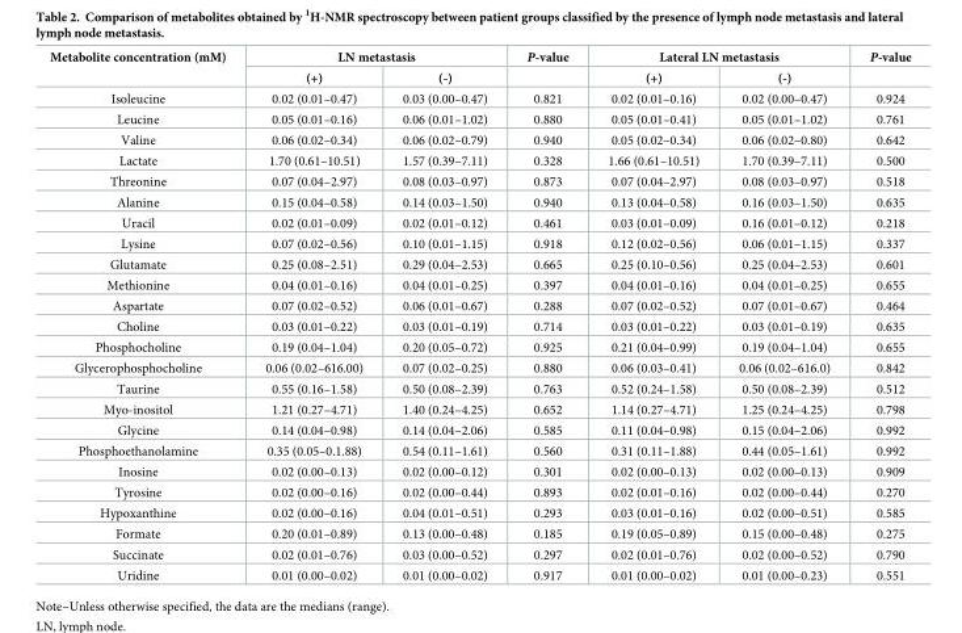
<table><thead><tr><td rowspan="2">Metabolite concentration (mM)</td><td colspan="2">LN metastasis</td><td rowspan="2">P-value</td><td colspan="2">Lateral LN metastasis</td><td rowspan="2">P-value</td></tr><tr><td>(+)</td><td>(-)</td><td>(+)</td><td>(-)</td></tr></thead><tbody><tr><td>Isoleucine</td><td>0.02 (0.01–0.47)</td><td>0.03 (0.00–0.47)</td><td>0.821</td><td>0.02 (0.01–0.16)</td><td>0.02 (0.00–0.47)</td><td>0.924</td></tr><tr><td>Leucine</td><td>0.05 (0.01–0.16)</td><td>0.06 (0.01–1.02)</td><td>0.880</td><td>0.05 (0.01–0.41)</td><td>0.05 (0.01–1.02)</td><td>0.761</td></tr><tr><td>Valine</td><td>0.06 (0.02–0.34)</td><td>0.06 (0.02–0.79)</td><td>0.940</td><td>0.05 (0.02–0.34)</td><td>0.06 (0.02–0.80)</td><td>0.642</td></tr><tr><td>Lactate</td><td>1.70 (0.61–10.51)</td><td>1.57 (0.39–7.11)</td><td>0.328</td><td>1.66 (0.61–10.51)</td><td>1.70 (0.39–7.11)</td><td>0.500</td></tr><tr><td>Threonine</td><td>0.07 (0.04–2.97)</td><td>0.08 (0.03–0.97)</td><td>0.873</td><td>0.07 (0.04–2.97)</td><td>0.08 (0.03–0.97)</td><td>0.518</td></tr><tr><td>Alanine</td><td>0.15 (0.04–0.58)</td><td>0.14 (0.03–1.50)</td><td>0.940</td><td>0.13 (0.04–0.58)</td><td>0.16 (0.03–1.50)</td><td>0.635</td></tr><tr><td>Uracil</td><td>0.02 (0.01–0.09)</td><td>0.02 (0.01–0.12)</td><td>0.461</td><td>0.03 (0.01–0.09)</td><td>0.16 (0.01–0.12)</td><td>0.218</td></tr><tr><td>Lysine</td><td>0.07 (0.02–0.56)</td><td>0.10 (0.01–1.15)</td><td>0.918</td><td>0.12 (0.02–0.56)</td><td>0.06 (0.01–1.15)</td><td>0.337</td></tr><tr><td>Glutamate</td><td>0.25 (0.08–2.51)</td><td>0.29 (0.04–2.53)</td><td>0.665</td><td>0.25 (0.10–0.56)</td><td>0.25 (0.04–2.53)</td><td>0.601</td></tr><tr><td>Methionine</td><td>0.04 (0.01–0.16)</td><td>0.04 (0.01–0.25)</td><td>0.397</td><td>0.04 (0.01–0.16)</td><td>0.04 (0.01–0.25)</td><td>0.655</td></tr><tr><td>Aspartate</td><td>0.07 (0.02–0.52)</td><td>0.06 (0.01–0.67)</td><td>0.288</td><td>0.07 (0.02–0.52)</td><td>0.07 (0.01–0.67)</td><td>0.464</td></tr><tr><td>Choline</td><td>0.03 (0.01–0.22)</td><td>0.03 (0.01–0.19)</td><td>0.714</td><td>0.03 (0.01–0.22)</td><td>0.03 (0.01–0.19)</td><td>0.635</td></tr><tr><td>Phosphocholine</td><td>0.19 (0.04–1.04)</td><td>0.20 (0.05–0.72)</td><td>0.925</td><td>0.21 (0.04–0.99)</td><td>0.19 (0.04–1.04)</td><td>0.655</td></tr><tr><td>Glycerophosphocholine</td><td>0.06 (0.02–616.00)</td><td>0.07 (0.02–0.25)</td><td>0.880</td><td>0.06 (0.03–0.41)</td><td>0.06 (0.02–616.0)</td><td>0.842</td></tr><tr><td>Taurine</td><td>0.55 (0.16–1.58)</td><td>0.50 (0.08–2.39)</td><td>0.763</td><td>0.52 (0.24–1.58)</td><td>0.50 (0.08–2.39)</td><td>0.512</td></tr><tr><td>Myo-inositol</td><td>1.21 (0.27–4.71)</td><td>1.40 (0.24–4.25)</td><td>0.652</td><td>1.14 (0.27–4.71)</td><td>1.25 (0.24–4.25)</td><td>0.798</td></tr><tr><td>Glycine</td><td>0.14 (0.04–0.98)</td><td>0.14 (0.04–2.06)</td><td>0.585</td><td>0.11 (0.04–0.98)</td><td>0.15 (0.04–2.06)</td><td>0.992</td></tr><tr><td>Phosphoethanolamine</td><td>0.35 (0.05–0.1.88)</td><td>0.54 (0.11–1.61)</td><td>0.560</td><td>0.31 (0.11–1.88)</td><td>0.44 (0.05–1.61)</td><td>0.992</td></tr><tr><td>Inosine</td><td>0.02 (0.00–0.13)</td><td>0.02 (0.00–0.12)</td><td>0.301</td><td>0.02 (0.00–0.13)</td><td>0.02 (0.00–0.13)</td><td>0.909</td></tr><tr><td>Tyrosine</td><td>0.02 (0.00–0.16)</td><td>0.02 (0.00–0.44)</td><td>0.893</td><td>0.02 (0.01–0.16)</td><td>0.02 (0.00–0.44)</td><td>0.270</td></tr><tr><td>Hypoxanthine</td><td>0.02 (0.00–0.16)</td><td>0.04 (0.01–0.51)</td><td>0.293</td><td>0.03 (0.01–0.16)</td><td>0.02 (0.00–0.51)</td><td>0.585</td></tr><tr><td>Formate</td><td>0.20 (0.01–0.89)</td><td>0.13 (0.00–0.48)</td><td>0.185</td><td>0.19 (0.05–0.89)</td><td>0.15 (0.00–0.48)</td><td>0.275</td></tr><tr><td>Succinate</td><td>0.02 (0.01–0.76)</td><td>0.03 (0.00–0.52)</td><td>0.297</td><td>0.02 (0.01–0.76)</td><td>0.02 (0.00–0.52)</td><td>0.790</td></tr><tr><td>Uridine</td><td>0.01 (0.00–0.02)</td><td>0.01 (0.00–0.02)</td><td>0.917</td><td>0.01 (0.00–0.02)</td><td>0.01 (0.00–0.23)</td><td>0.551</td></tr></tbody></table>